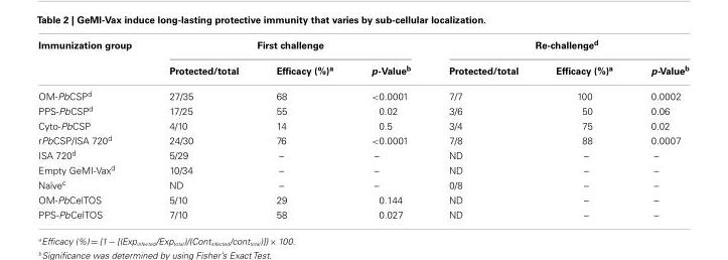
<table><thead><tr><td rowspan="2">Immunization group</td><td colspan="3">First challenge</td><td colspan="3">Re-challenge<sup>d</sup></td></tr><tr><td>Protected/total</td><td>Efficacy (%)<sup>a</sup></td><td>p-Value<sup>b</sup></td><td>Protected/total</td><td>Efficacy (%)<sup>a</sup></td><td>p-Value<sup>b</sup></td></tr></thead><tbody><tr><td>OM-PbCSP<sup>d</sup></td><td>27/35</td><td>68</td><td>&lt;0.0001</td><td>7/7</td><td>100</td><td>0.0002</td></tr><tr><td>PPS-PbCSP<sup>d</sup></td><td>17/25</td><td>55</td><td>0.02</td><td>3/6</td><td>50</td><td>0.06</td></tr><tr><td>Cyto-PbCSP</td><td>4/10</td><td>14</td><td>0.5</td><td>3/4</td><td>75</td><td>0.02</td></tr><tr><td>rPbCSP/ISA 720<sup>d</sup></td><td>24/30</td><td>76</td><td>&lt;0.0001</td><td>7/8</td><td>88</td><td>0.0007</td></tr><tr><td>ISA 720<sup>d</sup></td><td>5/29</td><td>–</td><td>–</td><td>ND</td><td>–</td><td>–</td></tr><tr><td>Empty GeMI-Vax<sup>d</sup></td><td>10/34</td><td>–</td><td>–</td><td>ND</td><td>–</td><td>–</td></tr><tr><td>Naïve<sup>c</sup></td><td>ND</td><td>–</td><td>–</td><td>0/8</td><td>–</td><td>–</td></tr><tr><td>OM-PbCelTOS</td><td>5/10</td><td>29</td><td>0.144</td><td>ND</td><td>–</td><td>–</td></tr><tr><td>PPS-PbCelTOS</td><td>7/10</td><td>58</td><td>0.027</td><td>ND</td><td>–</td><td>–</td></tr></tbody></table>